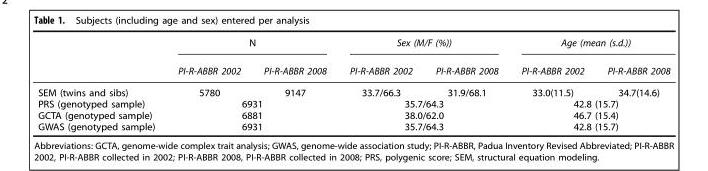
<table><thead><tr><td rowspan="2"></td><td colspan="2">N</td><td colspan="2">Sex (M/F (%))</td><td colspan="2">Age (mean (s.d.))</td></tr><tr><td>PI-R-ABBR 2002</td><td>PI-R-ABBR 2008</td><td>PI-R-ABBR 2002</td><td>PI-R-ABBR 2008</td><td>PI-R-ABBR 2002</td><td>PI-R-ABBR 2008</td></tr></thead><tbody><tr><td>SEM (twins and sibs)</td><td>5780</td><td>9147</td><td>33.7/66.3</td><td>31.9/68.1</td><td>33.0(11.5)</td><td>34.7(14.6)</td></tr><tr><td>PRS (genotyped sample)</td><td colspan="2">6931</td><td colspan="2">35.7/64.3</td><td colspan="2">42.8 (15.7)</td></tr><tr><td>GCTA (genotyped sample)</td><td colspan="2">6881</td><td colspan="2">38.0/62.0</td><td colspan="2">46.7 (15.4)</td></tr><tr><td>GWAS (genotyped sample)</td><td colspan="2">6931</td><td colspan="2">35.7/64.3</td><td colspan="2">42.8 (15.7)</td></tr></tbody></table>